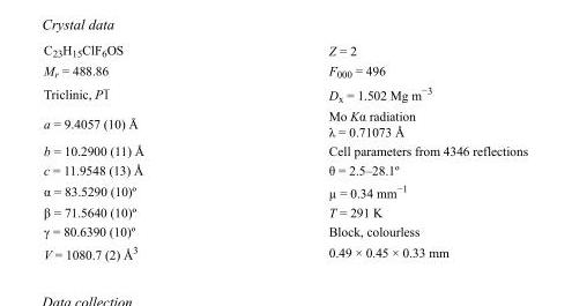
<table><tbody><tr><td>C<sub>23</sub>H<sub>15</sub>ClF<sub>6</sub>OS</td><td>Z = 2</td></tr><tr><td>M<sub>r</sub> = 488.86</td><td>F000 = 496</td></tr><tr><td>Triclinic, P1</td><td>D<sub>x</sub> = 1.502 Mg m<sup>−3</sup></td></tr><tr><td>a = 9.4057 (10) Å</td><td>Mo Kα radiation λ = 0.71073 Å</td></tr><tr><td>b = 10.2900 (11) Å</td><td>Cell parameters from 4346 reflections</td></tr><tr><td>c = 11.9548 (13) Å</td><td>θ = 2.5–28.1º</td></tr><tr><td>α = 83.5290 (10)º</td><td>µ = 0.34 mm<sup>−1</sup></td></tr><tr><td>β = 71.5640 (10)º</td><td>T = 291 K</td></tr><tr><td>γ = 80.6390 (10)º</td><td>Block, colourless</td></tr><tr><td>V = 1080.7 (2) Å<sup>3</sup></td><td>0.49 × 0.45 × 0.33 mm</td></tr></tbody></table>